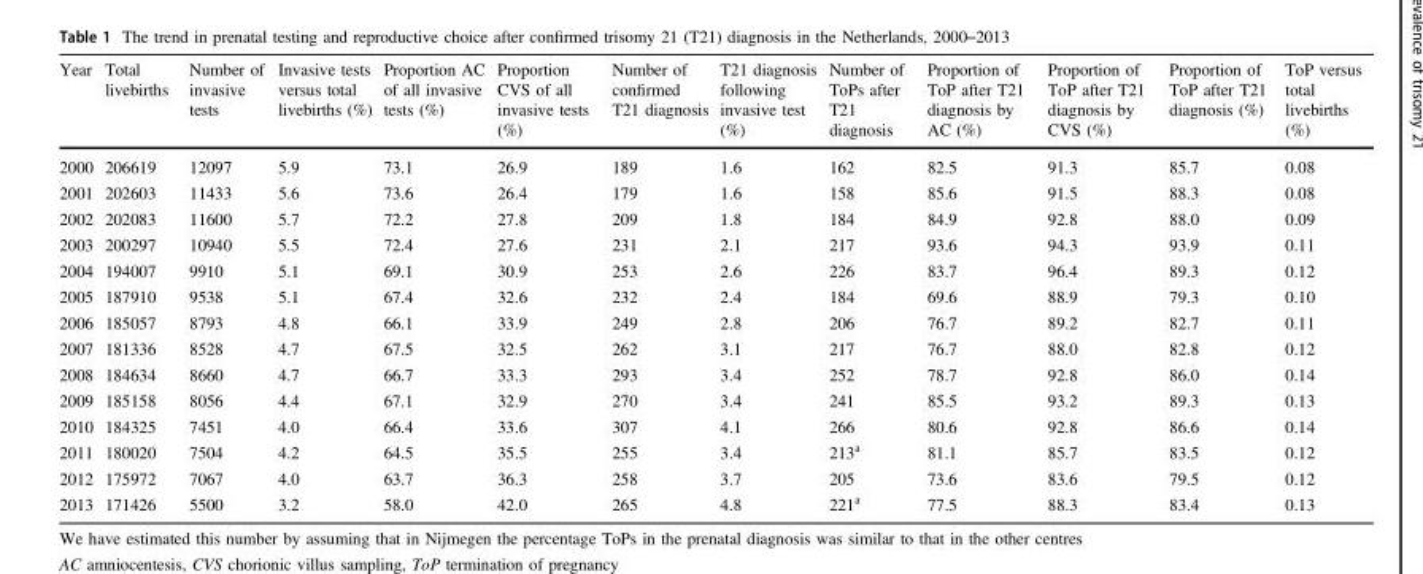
<table><thead><tr><td>Year</td><td>Total livebirths</td><td>Number of invasive tests</td><td>Invasive tests versus total livebirths (%)</td><td>Proportion AC of all invasive tests (%)</td><td>Proportion CVS of all invasive tests (%)</td><td>Number of confirmed T21 diagnosis</td><td>T21 diagnosis following invasive test (%)</td><td>Number of ToPs after T21 diagnosis</td><td>Proportion of ToP after T21 diagnosis by AC (%)</td><td>Proportion of ToP after T21 diagnosis by CVS (%)</td><td>Proportion of ToP after T21 diagnosis (%)</td><td>ToP versus total livebirths (%)</td></tr></thead><tbody><tr><td>2000</td><td>206619</td><td>12097</td><td>5.9</td><td>73.1</td><td>26.9</td><td>189</td><td>1.6</td><td>162</td><td>82.5</td><td>91.3</td><td>85.7</td><td>0.08</td></tr><tr><td>2001</td><td>202603</td><td>11433</td><td>5.6</td><td>73.6</td><td>26.4</td><td>179</td><td>1.6</td><td>158</td><td>85.6</td><td>91.5</td><td>88.3</td><td>0.08</td></tr><tr><td>2002</td><td>202083</td><td>11600</td><td>5.7</td><td>72.2</td><td>27.8</td><td>209</td><td>1.8</td><td>184</td><td>84.9</td><td>92.8</td><td>88.0</td><td>0.09</td></tr><tr><td>2003</td><td>200297</td><td>10940</td><td>5.5</td><td>72.4</td><td>27.6</td><td>231</td><td>2.1</td><td>217</td><td>93.6</td><td>94.3</td><td>93.9</td><td>0.11</td></tr><tr><td>2004</td><td>194007</td><td>9910</td><td>5.1</td><td>69.1</td><td>30.9</td><td>253</td><td>2.6</td><td>226</td><td>83.7</td><td>96.4</td><td>89.3</td><td>0.12</td></tr><tr><td>2005</td><td>187910</td><td>9538</td><td>5.1</td><td>67.4</td><td>32.6</td><td>232</td><td>2.4</td><td>184</td><td>69.6</td><td>88.9</td><td>79.3</td><td>0.10</td></tr><tr><td>2006</td><td>185057</td><td>8793</td><td>4.8</td><td>66.1</td><td>33.9</td><td>249</td><td>2.8</td><td>206</td><td>76.7</td><td>89.2</td><td>82.7</td><td>0.11</td></tr><tr><td>2007</td><td>181336</td><td>8528</td><td>4.7</td><td>67.5</td><td>32.5</td><td>262</td><td>3.1</td><td>217</td><td>76.7</td><td>88.0</td><td>82.8</td><td>0.12</td></tr><tr><td>2008</td><td>184634</td><td>8660</td><td>4.7</td><td>66.7</td><td>33.3</td><td>293</td><td>3.4</td><td>252</td><td>78.7</td><td>92.8</td><td>86.0</td><td>0.14</td></tr><tr><td>2009</td><td>185158</td><td>8056</td><td>4.4</td><td>67.1</td><td>32.9</td><td>270</td><td>3.4</td><td>241</td><td>85.5</td><td>93.2</td><td>89.3</td><td>0.13</td></tr><tr><td>2010</td><td>184325</td><td>7451</td><td>4.0</td><td>66.4</td><td>33.6</td><td>307</td><td>4.1</td><td>266</td><td>80.6</td><td>92.8</td><td>86.6</td><td>0.14</td></tr><tr><td>2011</td><td>180020</td><td>7504</td><td>4.2</td><td>64.5</td><td>35.5</td><td>255</td><td>3.4</td><td>213a</td><td>81.1</td><td>85.7</td><td>83.5</td><td>0.12</td></tr><tr><td>2012</td><td>175972</td><td>7067</td><td>4.0</td><td>63.7</td><td>36.3</td><td>258</td><td>3.7</td><td>205</td><td>73.6</td><td>83.6</td><td>79.5</td><td>0.12</td></tr><tr><td>2013</td><td>171426</td><td>5500</td><td>3.2</td><td>58.0</td><td>42.0</td><td>265</td><td>4.8</td><td>221a</td><td>77.5</td><td>88.3</td><td>83.4</td><td>0.13</td></tr></tbody></table>